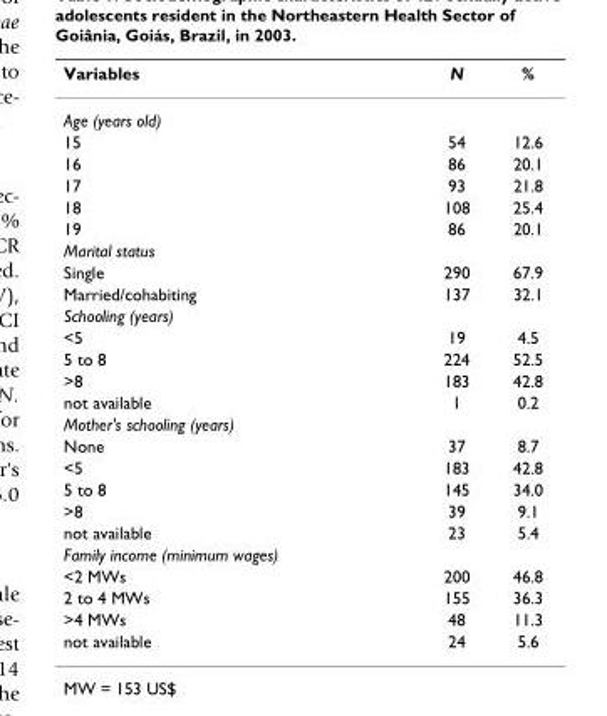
<table><thead><tr><td>Variables</td><td>N</td><td>%</td></tr></thead><tbody><tr><td colspan="3">Age (years old)</td></tr><tr><td>15</td><td>54</td><td>12.6</td></tr><tr><td>16</td><td>86</td><td>20.1</td></tr><tr><td>17</td><td>93</td><td>21.8</td></tr><tr><td>18</td><td>108</td><td>25.4</td></tr><tr><td>19</td><td>86</td><td>20.1</td></tr><tr><td colspan="3">Marital status</td></tr><tr><td>Single</td><td>290</td><td>67.9</td></tr><tr><td>Married/cohabiting</td><td>137</td><td>32.1</td></tr><tr><td colspan="3">Schooling (years)</td></tr><tr><td>&lt;5</td><td>19</td><td>4.5</td></tr><tr><td>5 to 8</td><td>224</td><td>52.5</td></tr><tr><td>&gt;8</td><td>183</td><td>42.8</td></tr><tr><td>not available</td><td>1</td><td>0.2</td></tr><tr><td colspan="3">Mother&#x27;s schooling (years)</td></tr><tr><td>None</td><td>37</td><td>8.7</td></tr><tr><td>&lt;5</td><td>183</td><td>42.8</td></tr><tr><td>5 to 8</td><td>145</td><td>34.0</td></tr><tr><td>&gt;8</td><td>39</td><td>9.1</td></tr><tr><td>not available</td><td>23</td><td>5.4</td></tr><tr><td colspan="3">Family income (minimum wages)</td></tr><tr><td>&lt;2 MWs</td><td>200</td><td>46.8</td></tr><tr><td>2 to 4 MWs</td><td>155</td><td>36.3</td></tr><tr><td>&gt;4 MWs</td><td>48</td><td>11.3</td></tr><tr><td>not available</td><td>24</td><td>5.6</td></tr></tbody></table>